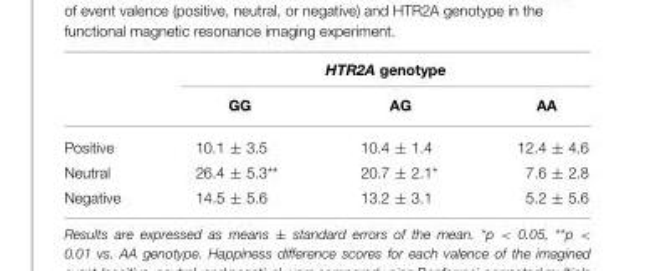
<table><thead><tr><td rowspan="2"></td><td colspan="3">HTR2A genotype</td></tr><tr><td>GG</td><td>AG</td><td>AA</td></tr></thead><tbody><tr><td>Positive</td><td>10.1 ± 3.5</td><td>10.4 ± 1.4</td><td>12.4 ± 4.6</td></tr><tr><td>Neutral</td><td>26.4 ± 5.3**</td><td>20.7 ± 2.1*</td><td>7.6 ± 2.8</td></tr><tr><td>Negative</td><td>14.5 ± 5.6</td><td>13.2 ± 3.1</td><td>5.2 ± 5.6</td></tr></tbody></table>